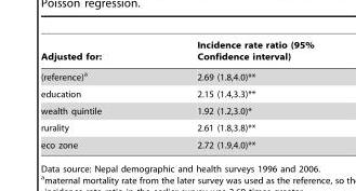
<table><thead><tr><td>Adjusted for:</td><td>Incidence rate ratio (95% Confidence interval)</td></tr></thead><tbody><tr><td>(reference)<sup>a</sup></td><td>2.69 (1.8,4.0)**</td></tr><tr><td>education</td><td>2.15 (1.4,3.3)**</td></tr><tr><td>wealth quintile</td><td>1.92 (1.2,3.0)*</td></tr><tr><td>rurality</td><td>2.61 (1.8,3.8)**</td></tr><tr><td>eco zone</td><td>2.72 (1.9,4.0)**</td></tr></tbody></table>